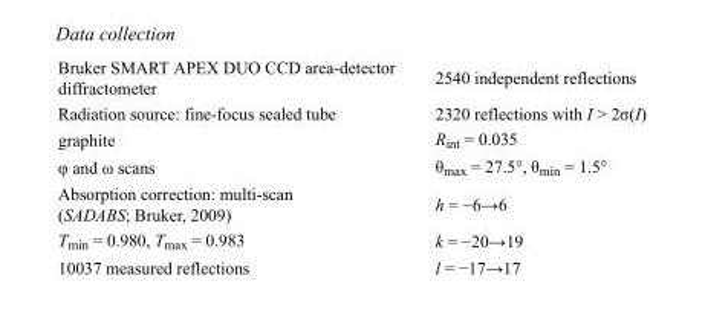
<table><tbody><tr><td>Bruker SMART APEX DUO CCD area-detector diffractometer</td><td>2540 independent reflections</td></tr><tr><td>Radiation source: fine-focus sealed tube</td><td>2320 reflections with I &gt; 2σ(I)</td></tr><tr><td>graphite</td><td>R<sub>int</sub> = 0.035</td></tr><tr><td>φ and ω scans</td><td>θ<sub>max</sub> = 27.5°, θ<sub>min</sub> = 1.5°</td></tr><tr><td>Absorption correction: multi-scan (SADABS; Bruker, 2009)</td><td>h = −6→6</td></tr><tr><td>T<sub>min</sub> = 0.980, T<sub>max</sub> = 0.983</td><td>k = −20→19</td></tr><tr><td>10037 measured reflections</td><td>l = −17→17</td></tr></tbody></table>